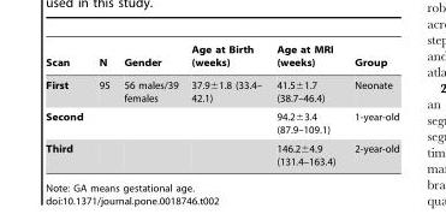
<table><thead><tr><td>Scan</td><td>N</td><td>Gender</td><td>Age at Birth (weeks)</td><td>Age at MRI (weeks)</td><td>Group</td></tr></thead><tbody><tr><td>First</td><td>95</td><td>56 males/39 females</td><td>37.9±1.8 (33.4– 42.1)</td><td>41.5±1.7 (38.7–46.4)</td><td>Neonate</td></tr><tr><td>Second</td><td></td><td></td><td></td><td>94.2±3.4 (87.9–109.1)</td><td>1-year-old</td></tr><tr><td>Third</td><td></td><td></td><td></td><td>146.2±4.9 (131.4–163.4)</td><td>2-year-old</td></tr></tbody></table>